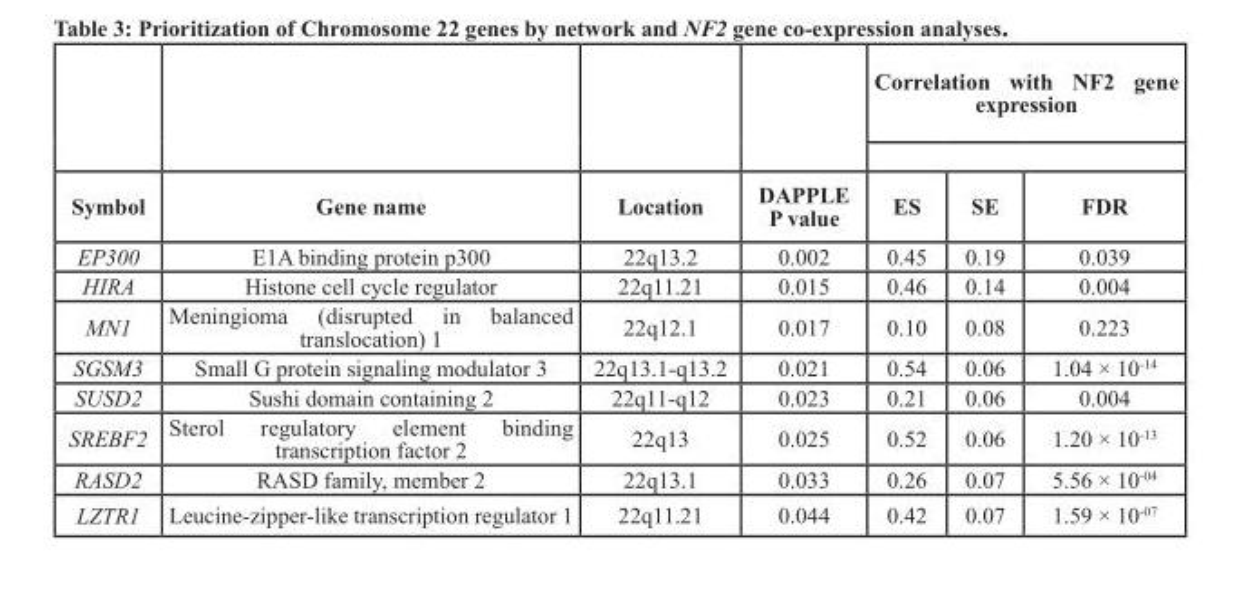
<table><thead><tr><td rowspan="2">Symbol</td><td rowspan="2">Gene name</td><td rowspan="2">Location</td><td rowspan="2">DAPPLE P value</td><td colspan="3">Correlation with NF2 gene expression</td></tr><tr><td>ES</td><td>SE</td><td>FDR</td></tr></thead><tbody><tr><td>EP300</td><td>E1A binding protein p300</td><td>22q13.2</td><td>0.002</td><td>0.45</td><td>0.19</td><td>0.039</td></tr><tr><td>HIRA</td><td>Histone cell cycle regulator</td><td>22q11.21</td><td>0.015</td><td>0.46</td><td>0.14</td><td>0.004</td></tr><tr><td>MN1</td><td>Meningioma (disrupted in balanced translocation) 1</td><td>22q12.1</td><td>0.017</td><td>0.10</td><td>0.08</td><td>0.223</td></tr><tr><td>SGSM3</td><td>Small G protein signaling modulator 3</td><td>22q13.1-q13.2</td><td>0.021</td><td>0.54</td><td>0.06</td><td>1.04 × 10<sup>-14</sup></td></tr><tr><td>SUSD2</td><td>Sushi domain containing 2</td><td>22q11-q12</td><td>0.023</td><td>0.21</td><td>0.06</td><td>0.004</td></tr><tr><td>SREBF2</td><td>Sterol regulatory element binding transcription factor 2</td><td>22q13</td><td>0.025</td><td>0.52</td><td>0.06</td><td>1.20 × 10<sup>-13</sup></td></tr><tr><td>RASD2</td><td>RASD family, member 2</td><td>22q13.1</td><td>0.033</td><td>0.26</td><td>0.07</td><td>5.56 × 10<sup>-04</sup></td></tr><tr><td>LZTR1</td><td>Leucine-zipper-like transcription regulator 1</td><td>22q11.21</td><td>0.044</td><td>0.42</td><td>0.07</td><td>1.59 × 10<sup>-07</sup></td></tr></tbody></table>